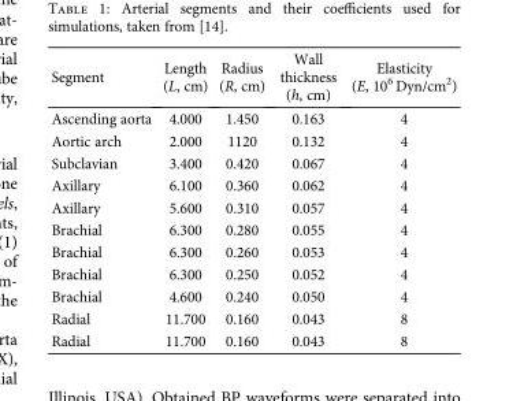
<table><thead><tr><td>Segment</td><td>Length (L, cm)</td><td>Radius (R, cm)</td><td>Wall thickness (h, cm)</td><td>Elasticity (E, 10<sup>6</sup> Dyn/cm<sup>2</sup>)</td></tr></thead><tbody><tr><td>Ascending aorta</td><td>4.000</td><td>1.450</td><td>0.163</td><td>4</td></tr><tr><td>Aortic arch</td><td>2.000</td><td>1120</td><td>0.132</td><td>4</td></tr><tr><td>Subclavian</td><td>3.400</td><td>0.420</td><td>0.067</td><td>4</td></tr><tr><td>Axillary</td><td>6.100</td><td>0.360</td><td>0.062</td><td>4</td></tr><tr><td>Axillary</td><td>5.600</td><td>0.310</td><td>0.057</td><td>4</td></tr><tr><td>Brachial</td><td>6.300</td><td>0.280</td><td>0.055</td><td>4</td></tr><tr><td>Brachial</td><td>6.300</td><td>0.260</td><td>0.053</td><td>4</td></tr><tr><td>Brachial</td><td>6.300</td><td>0.250</td><td>0.052</td><td>4</td></tr><tr><td>Brachial</td><td>4.600</td><td>0.240</td><td>0.050</td><td>4</td></tr><tr><td>Radial</td><td>11.700</td><td>0.160</td><td>0.043</td><td>8</td></tr><tr><td>Radial</td><td>11.700</td><td>0.160</td><td>0.043</td><td>8</td></tr></tbody></table>